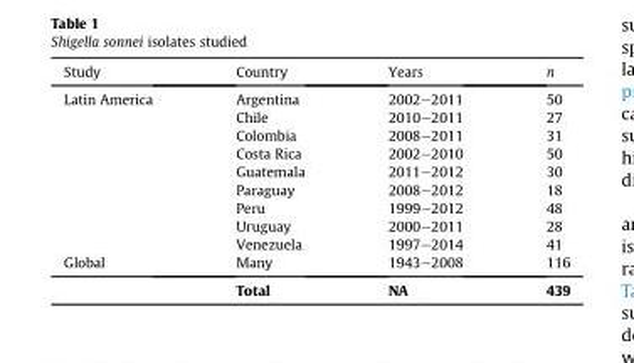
<table><thead><tr><td>Study</td><td>Country</td><td>Years</td><td>n</td></tr></thead><tbody><tr><td rowspan="9">Latin America</td><td>Argentina</td><td>2002–2011</td><td>50</td></tr><tr><td>Chile</td><td>2010–2011</td><td>27</td></tr><tr><td>Colombia</td><td>2008–2011</td><td>31</td></tr><tr><td>Costa Rica</td><td>2002–2010</td><td>50</td></tr><tr><td>Guatemala</td><td>2011–2012</td><td>30</td></tr><tr><td>Paraguay</td><td>2008–2012</td><td>18</td></tr><tr><td>Peru</td><td>1999–2012</td><td>48</td></tr><tr><td>Uruguay</td><td>2000–2011</td><td>28</td></tr><tr><td>Venezuela</td><td>1997–2014</td><td>41</td></tr><tr><td rowspan="2">Global</td><td>Many</td><td>1943–2008</td><td>116</td></tr><tr><td>Total</td><td>NA</td><td>439</td></tr></tbody></table>